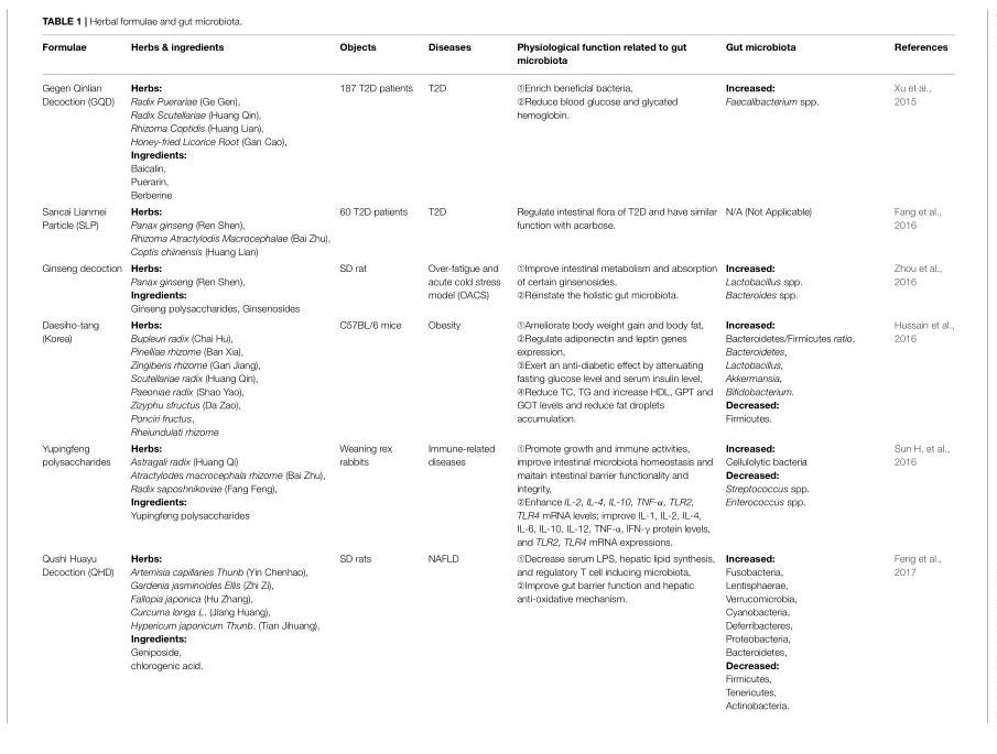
<table><thead><tr><td>Formulae</td><td>Herbs &amp; ingredients</td><td>Objects</td><td>Diseases</td><td>Physiological function related to gut microbiota</td><td>Gut microbiota</td><td>References</td></tr></thead><tbody><tr><td>Gegen Qinlian Decoction (GQD)</td><td>Herbs: Radix Puerariae (Ge Gen), Radix Scutellariae (Huang Qin), Rhizoma Coptidis (Huang Lian), Honey-fried Licorice Root (Gan Cao), Ingredients: Baicalin, Puerarin, Berberine</td><td>187 T2D patients</td><td>T2D</td><td>Enrich beneficial bacteria, Reduce blood glucose and glycated hemoglobin.</td><td>Increased: Faecalibacterium spp.</td><td>Xu et al., 2015</td></tr><tr><td>Sancai Lianmei Particle (SLP)</td><td>Herbs: Panax ginseng (Ren Shen), Rhizoma Atractylodis Macrocephalae (Bai Zhu), Coptis chiinensis (Huang Lian)</td><td>60 T2D patients</td><td>T2D</td><td>Regulate intestinal flora of T2D and have similar function with acarbose.</td><td>N/A (Not Applicable)</td><td>Fang et al., 2016</td></tr><tr><td>Ginseng decoction</td><td>Herbs: Panax ginseng (Ren Shen), Ingredients: Ginseng polysaccharides, Ginsenosides</td><td>SD rat</td><td>Over-fatigue and acute cold stress model (OACS)</td><td>Improve intestinal metabolism and absorption of certain ginsenosides, Reinstate the holistic gut microbiota.</td><td>Increased: Lactobacillus spp. Bacteroides spp.</td><td>Zhou et al., 2016</td></tr><tr><td>Daesiho-tang (Korea)</td><td>Herbs: Bupleuri radix (Chai Hu), Pinelliae rhizome (Ban Xia), Zingiberis rhizome (Gan Jiang), Scutellariae radix (Huang Qin), Paeoniae radix (Shao Yao), Zizyphu sfructus (Da Zao), Ponciri fructus, Rheiundulati rhizome</td><td>C57BL/6 mice</td><td>Obesity</td><td>Ameliorate body weight gain and body fat, Regulate adiponectin and leptin genes expression, Exert an anti-diabetic effect by attenuating fasting glucose level and serum insulin level, Reduce TC, TG and increase HDL, GPT and GOT levels and reduce fat droplets accumulation.</td><td>Increased: Bacteroidetes/Firmicutes ratio, Bacteroidetes, Lactobacillus, Akkermansia, Bifidobacterium. Decreased: Firmicutes.</td><td>Hussain et al., 2016</td></tr><tr><td>Yupingfeng polysaccharides</td><td>Herbs: Astragali radix (Huang Qi) Atractylodes macrocephala rhizome (Bai Zhu), Radix saposhnikoviae (Fang Feng), Ingredients: Yupingfeng polysaccharides</td><td>Weaning rex rabbits</td><td>Immune-related diseases</td><td>Promote growth and immune activities, improve intestinal microbiota homeostasis and maitain intestinal barrier functionality and integrity, Enhance IL-2, IL-4, IL-10, TNF-α, TLR2, TLR4 mRNA levels; improve IL-1, IL-2, IL-4, IL-6, IL-10, IL-12, TNF-α, IFN-γ protein levels, and TLR2, TLR4 mRNA expressions.</td><td>Increased: Cellulolytic bacteria Decreased: Streptococcus spp. Enterococcus spp.</td><td>Sun H. et al., 2016</td></tr><tr><td>Qushi Huayu Decoction (QHD)</td><td>Herbs: Artemisia capillaries Thunb (Yin Chenhao), Gardenia jasminoides Ellis (Zhi Zi), Fallopia japonica (Hu Zhang), Curcuma longa L. (Jiang Huang), Hypericum japonicum Thunb. (Tian Jihuang), Ingredients: Geniposide, chlorogenic acid.</td><td>SD rats</td><td>NAFLD</td><td>Decrease serum LPS, hepatic lipid synthesis, and regulatory T cell inducing microbiota, Improve gut barrier function and hepatic anti-oxidative mechanism.</td><td>Increased: Fusobacteria, Lentisphaerae, Verrucomicrobia, Cyanobacteria, Deferribacteres, Proteobacteria, Bacteroidetes, Decreased: Firmicutes, Tenericutes, Actinobacteria.</td><td>Feng et al., 2017</td></tr></tbody></table>